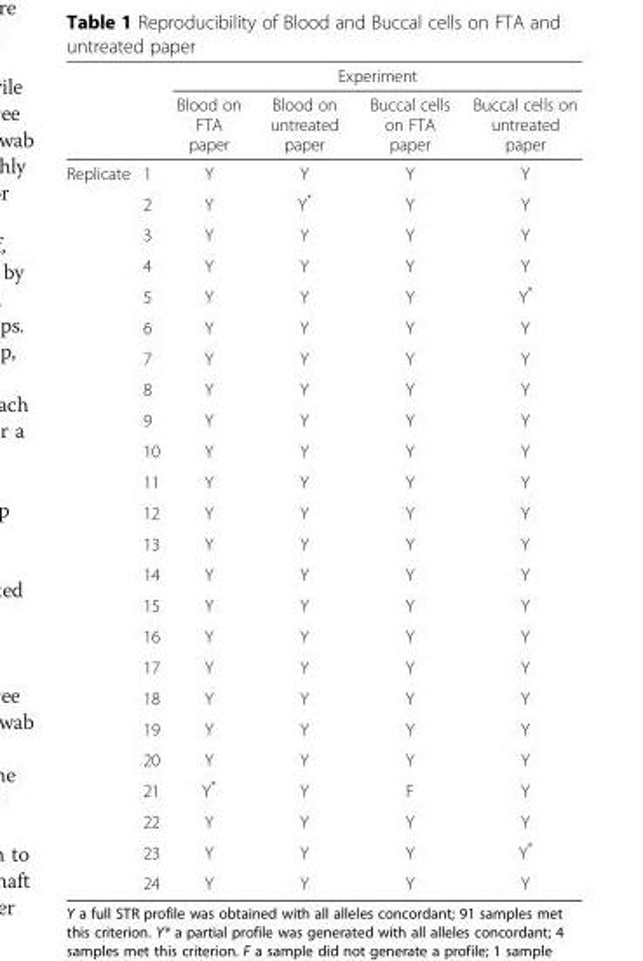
<table><thead><tr><td rowspan="2"></td><td rowspan="2"></td><td colspan="4">Experiment</td></tr><tr><td>Blood on FTA paper</td><td>Blood on untreated paper</td><td>Buccal cells on FTA paper</td><td>Buccal cells on untreated paper</td></tr></thead><tbody><tr><td rowspan="24">Replicate</td><td>1</td><td>Y</td><td>Y</td><td>Y</td><td>Y</td></tr><tr><td>2</td><td>Y</td><td>Y*</td><td>Y</td><td>Y</td></tr><tr><td>3</td><td>Y</td><td>Y</td><td>Y</td><td>Y</td></tr><tr><td>4</td><td>Y</td><td>Y</td><td>Y</td><td>Y</td></tr><tr><td>5</td><td>Y</td><td>Y</td><td>Y</td><td>Y*</td></tr><tr><td>6</td><td>Y</td><td>Y</td><td>Y</td><td>Y</td></tr><tr><td>7</td><td>Y</td><td>Y</td><td>Y</td><td>Y</td></tr><tr><td>8</td><td>Y</td><td>Y</td><td>Y</td><td>Y</td></tr><tr><td>9</td><td>Y</td><td>Y</td><td>Y</td><td>Y</td></tr><tr><td>10</td><td>Y</td><td>Y</td><td>Y</td><td>Y</td></tr><tr><td>11</td><td>Y</td><td>Y</td><td>Y</td><td>Y</td></tr><tr><td>12</td><td>Y</td><td>Y</td><td>Y</td><td>Y</td></tr><tr><td>13</td><td>Y</td><td>Y</td><td>Y</td><td>Y</td></tr><tr><td>14</td><td>Y</td><td>Y</td><td>Y</td><td>Y</td></tr><tr><td>15</td><td>Y</td><td>Y</td><td>Y</td><td>Y</td></tr><tr><td>16</td><td>Y</td><td>Y</td><td>Y</td><td>Y</td></tr><tr><td>17</td><td>Y</td><td>Y</td><td>Y</td><td>Y</td></tr><tr><td>18</td><td>Y</td><td>Y</td><td>Y</td><td>Y</td></tr><tr><td>19</td><td>Y</td><td>Y</td><td>Y</td><td>Y</td></tr><tr><td>20</td><td>Y</td><td>Y</td><td>Y</td><td>Y</td></tr><tr><td>21</td><td>Y*</td><td>Y</td><td>F</td><td>Y</td></tr><tr><td>22</td><td>Y</td><td>Y</td><td>Y</td><td>Y</td></tr><tr><td>23</td><td>Y</td><td>Y</td><td>Y</td><td>Y*</td></tr><tr><td>24</td><td>Y</td><td>Y</td><td>Y</td><td>Y</td></tr></tbody></table>